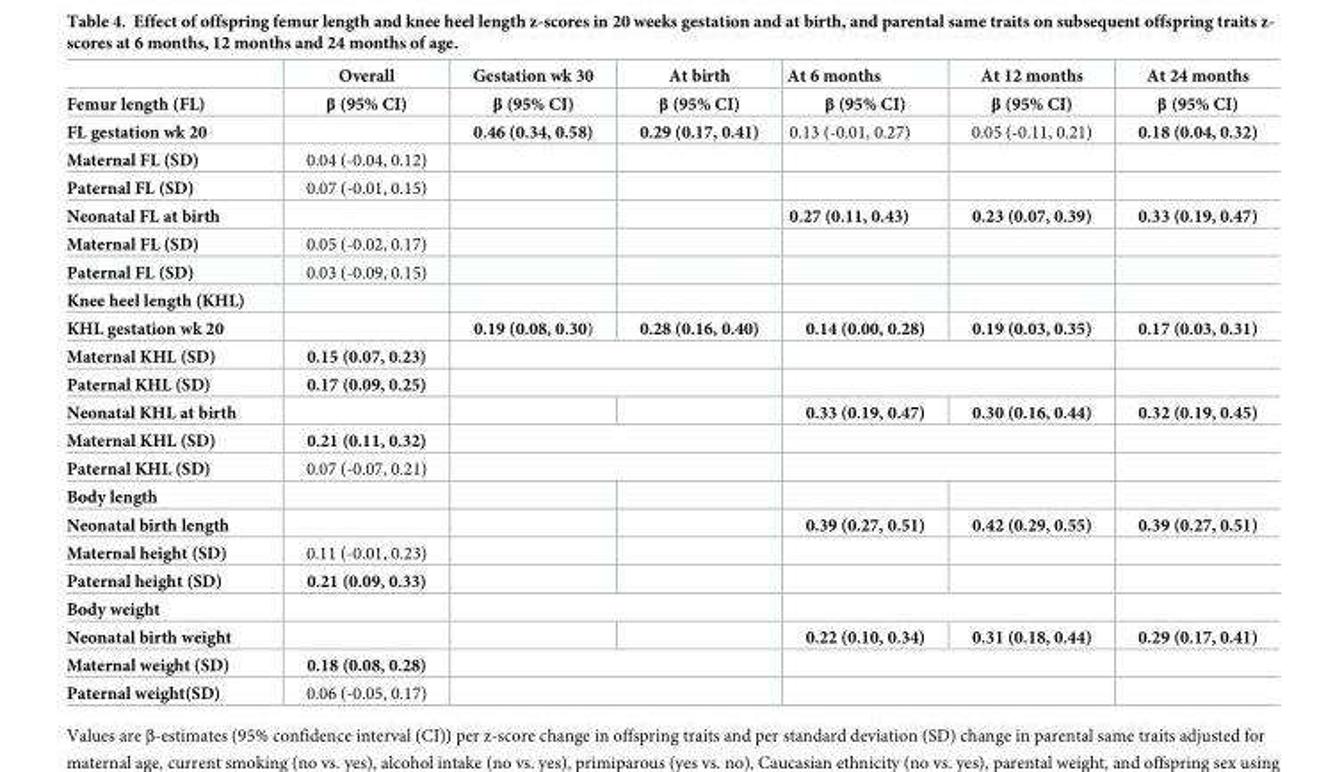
<table><thead><tr><td rowspan="2">Femur length (FL)</td><td rowspan="2">Overall β (95% CI)</td><td rowspan="2">Gestation wk 30 β (95% CI)</td><td rowspan="2">At birth β (95% CI)</td><td rowspan="2">At 6 months β (95% CI)</td><td rowspan="2">At 12 months β (95% CI)</td><td rowspan="2">At 24 months β (95% CI)</td></tr><tr></tr></thead><tbody><tr><td>FL gestation wk 20</td><td></td><td>0.46 (0.34, 0.58)</td><td>0.29 (0.17, 0.41)</td><td>0.13 (-0.01, 0.27)</td><td>0.05 (-0.11, 0.21)</td><td>0.18 (0.04, 0.32)</td></tr><tr><td>Maternal FL (SD)</td><td>0.04 (-0.04, 0.12)</td><td></td><td></td><td></td><td></td><td></td></tr><tr><td>Paternal FL (SD)</td><td>0.07 (-0.01, 0.15)</td><td></td><td></td><td></td><td></td><td></td></tr><tr><td>Neonatal FL at birth</td><td></td><td></td><td></td><td>0.27 (0.11, 0.43)</td><td>0.23 (0.07, 0.39)</td><td>0.33 (0.19, 0.47)</td></tr><tr><td>Maternal FL (SD)</td><td>0.05 (-0.02, 0.17)</td><td></td><td></td><td></td><td></td><td></td></tr><tr><td>Paternal FL (SD)</td><td>0.03 (-0.09, 0.15)</td><td></td><td></td><td></td><td></td><td></td></tr><tr><td colspan="7">Knee heel length (KHL)</td></tr><tr><td>KHL gestation wk 20</td><td></td><td>0.19 (0.08, 0.30)</td><td>0.28 (0.16, 0.40)</td><td>0.14 (0.00, 0.28)</td><td>0.19 (0.03, 0.35)</td><td>0.17 (0.03, 0.31)</td></tr><tr><td>Maternal KHL (SD)</td><td>0.15 (0.07, 0.23)</td><td colspan="2"></td><td colspan="2"></td><td></td></tr><tr><td>Paternal KHL (SD)</td><td>0.17 (0.09, 0.25)</td><td colspan="2"></td><td colspan="2"></td><td></td></tr><tr><td>Neonatal KHL at birth</td><td></td><td></td><td></td><td>0.33 (0.19, 0.47)</td><td>0.30 (0.16, 0.44)</td><td>0.32 (0.19, 0.45)</td></tr><tr><td>Maternal KHL (SD)</td><td>0.21 (0.11, 0.32)</td><td colspan="2"></td><td colspan="2"></td><td></td></tr><tr><td>Paternal KHL (SD)</td><td>0.07 (-0.07, 0.21)</td><td colspan="2"></td><td colspan="2"></td><td></td></tr><tr><td colspan="7">Body length</td></tr><tr><td>Neonatal birth length</td><td></td><td></td><td></td><td>0.39 (0.27, 0.51)</td><td>0.42 (0.29, 0.55)</td><td>0.39 (0.27, 0.51)</td></tr><tr><td>Maternal height (SD)</td><td>0.11 (-0.01, 0.23)</td><td></td><td></td><td></td><td></td><td></td></tr><tr><td>Paternal height (SD)</td><td>0.21 (0.09, 0.33)</td><td></td><td></td><td></td><td></td><td></td></tr><tr><td colspan="7">Body weight</td></tr><tr><td>Neonatal birth weight</td><td></td><td></td><td></td><td>0.22 (0.10, 0.34)</td><td>0.31 (0.18, 0.44)</td><td>0.29 (0.17, 0.41)</td></tr><tr><td>Maternal weight (SD)</td><td>0.18 (0.08, 0.28)</td><td colspan="2"></td><td colspan="2"></td><td></td></tr><tr><td>Paternal weight(SD)</td><td>0.06 (-0.05, 0.17)</td><td colspan="2"></td><td colspan="2"></td><td></td></tr></tbody></table>